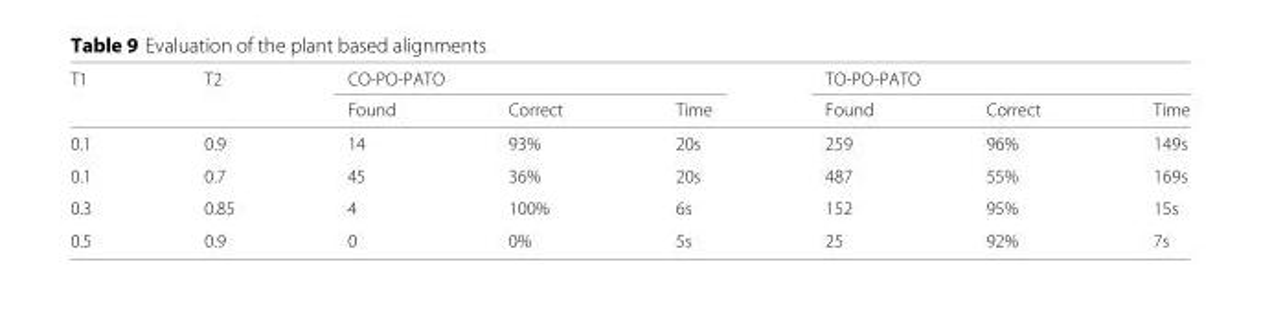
<table><thead><tr><td rowspan="2">T1</td><td rowspan="2">T2</td><td colspan="3">CO-PO-PATO</td><td colspan="3">TO-PO-PATO</td></tr><tr><td>Found</td><td>Correct</td><td>Time</td><td>Found</td><td>Correct</td><td>Time</td></tr></thead><tbody><tr><td>0.1</td><td>0.9</td><td>14</td><td>93%</td><td>20s</td><td>259</td><td>96%</td><td>149s</td></tr><tr><td>0.1</td><td>0.7</td><td>45</td><td>36%</td><td>20s</td><td>487</td><td>55%</td><td>169s</td></tr><tr><td>0.3</td><td>0.85</td><td>4</td><td>100%</td><td>6s</td><td>152</td><td>95%</td><td>15s</td></tr><tr><td>0.5</td><td>0.9</td><td>0</td><td>0%</td><td>5s</td><td>25</td><td>92%</td><td>7s</td></tr></tbody></table>